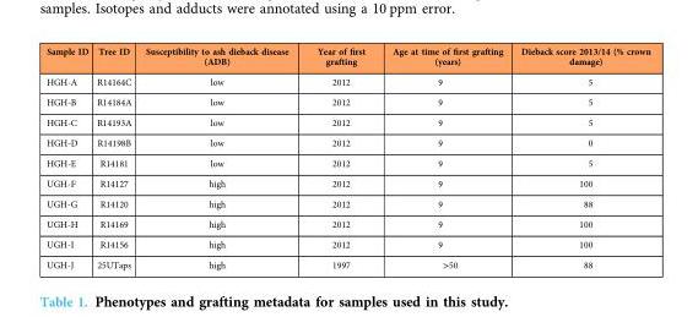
<table><thead><tr><td>Sample ID</td><td>Tree ID</td><td>Susceptibility to ash dieback disease (ADB)</td><td>Year of first grafting</td><td>Age at time of first grafting (years)</td><td>Dieback score 2013/14 (% crown damage)</td></tr></thead><tbody><tr><td>HGH-A</td><td>R14164C</td><td>low</td><td>2012</td><td>9</td><td>5</td></tr><tr><td>HGH-B</td><td>R14184A</td><td>low</td><td>2012</td><td>9</td><td>5</td></tr><tr><td>HGH-C</td><td>R14193A</td><td>low</td><td>2012</td><td>9</td><td>5</td></tr><tr><td>HGH-D</td><td>R14198B</td><td>low</td><td>2012</td><td>9</td><td>0</td></tr><tr><td>HGH-E</td><td>R14181</td><td>low</td><td>2012</td><td>9</td><td>5</td></tr><tr><td>UGH-F</td><td>R14127</td><td>high</td><td>2012</td><td>9</td><td>100</td></tr><tr><td>UGH-G</td><td>R14120</td><td>high</td><td>2012</td><td>9</td><td>88</td></tr><tr><td>UGH-H</td><td>R14169</td><td>high</td><td>2012</td><td>9</td><td>100</td></tr><tr><td>UGH-I</td><td>R14156</td><td>high</td><td>2012</td><td>9</td><td>100</td></tr><tr><td>UGH-J</td><td>25UTaps</td><td>high</td><td>1997</td><td>&gt;50</td><td>88</td></tr></tbody></table>